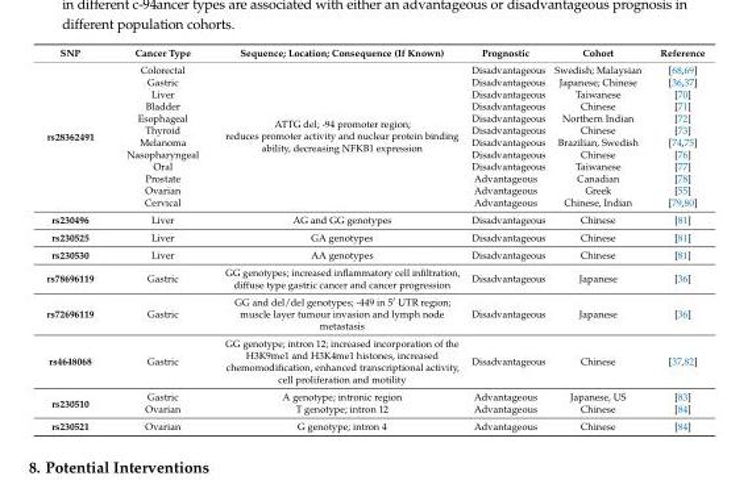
<table><thead><tr><td>SNP</td><td>Cancer Type</td><td>Sequence; Location; Consequence (If Known)</td><td>Prognostic</td><td>Cohort</td><td>Reference</td></tr></thead><tbody><tr><td rowspan="12">rs28362491</td><td>Colorectal</td><td rowspan="12">ATTG del; -94 promoter region; reduces promoter activity and nuclear protein binding ability, decreasing NFKB1 expression</td><td>Disadvantageous</td><td>Swedish; Malaysian</td><td>[68,69]</td></tr><tr><td>Gastric</td><td>Disadvantageous</td><td>Japanese; Chinese</td><td>[36,37]</td></tr><tr><td>Liver</td><td>Disadvantageous</td><td>Taiwanese</td><td>[70]</td></tr><tr><td>Bladder</td><td>Disadvantageous</td><td>Chinese</td><td>[71]</td></tr><tr><td>Esophageal</td><td>Disadvantageous</td><td>Northern Indian</td><td>[72]</td></tr><tr><td>Thyroid</td><td>Disadvantageous</td><td>Chinese</td><td>[73]</td></tr><tr><td>Melanoma</td><td>Disadvantageous</td><td>Brazilian, Swedish</td><td>[74,75]</td></tr><tr><td>Nasopharyngeal</td><td>Disadvantageous</td><td>Chinese</td><td>[76]</td></tr><tr><td>Oral</td><td>Disadvantageous</td><td>Taiwanese</td><td>[77]</td></tr><tr><td>Prostate</td><td>Advantageous</td><td>Canadian</td><td>[78]</td></tr><tr><td>Ovarian</td><td>Advantageous</td><td>Greek</td><td>[55]</td></tr><tr><td>Cervical</td><td>Advantageous</td><td>Chinese, Indian</td><td>[79,80]</td></tr><tr><td>rs230496</td><td>Liver</td><td>AG and GG genotypes</td><td>Disadvantageous</td><td>Chinese</td><td>[81]</td></tr><tr><td>rs230525</td><td>Liver</td><td>GA genotypes</td><td>Disadvantageous</td><td>Chinese</td><td>[81]</td></tr><tr><td>rs230530</td><td>Liver</td><td>AA genotypes</td><td>Disadvantageous</td><td>Chinese</td><td>[81]</td></tr><tr><td>rs78696119</td><td>Gastric</td><td>GG genotypes; increased inflammatory cell infiltration, diffuse type gastric cancer and cancer progression</td><td>Disadvantageous</td><td>Japanese</td><td>[36]</td></tr><tr><td>rs72696119</td><td>Gastric</td><td>GG and del/del genotypes; -449 in 5′ UTR region; muscle layer tumour invasion and lymph node metastasis</td><td>Disadvantageous</td><td>Japanese</td><td>[36]</td></tr><tr><td>rs4648068</td><td>Gastric</td><td>GG genotype; intron 12; increased incorporation of the H3K9me1 and H3K4me1 histones, increased chemomodification, enhanced transcriptional activity, cell proliferation and motility</td><td>Disadvantageous</td><td>Chinese</td><td>[37,82]</td></tr><tr><td rowspan="2">rs230510</td><td>Gastric</td><td>A genotype; intronic region</td><td>Advantageous</td><td>Japanese, US</td><td>[83]</td></tr><tr><td>Ovarian</td><td>T genotype; intron 12</td><td>Advantageous</td><td>Chinese</td><td>[84]</td></tr><tr><td>rs230521</td><td>Ovarian</td><td>G genotype; intron 4</td><td>Advantageous</td><td>Chinese</td><td>[84]</td></tr></tbody></table>